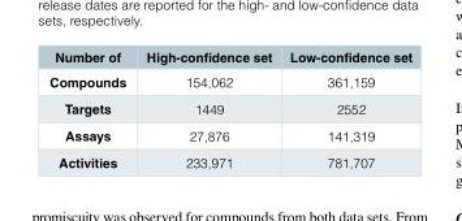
<table><thead><tr><td>Number of</td><td>High-confidence set</td><td>Low-confidence set</td></tr></thead><tbody><tr><td>Compounds</td><td>154,062</td><td>361,159</td></tr><tr><td>Targets</td><td>1449</td><td>2552</td></tr><tr><td>Assays</td><td>27,876</td><td>141,319</td></tr><tr><td>Activities</td><td>233,971</td><td>781,707</td></tr></tbody></table>